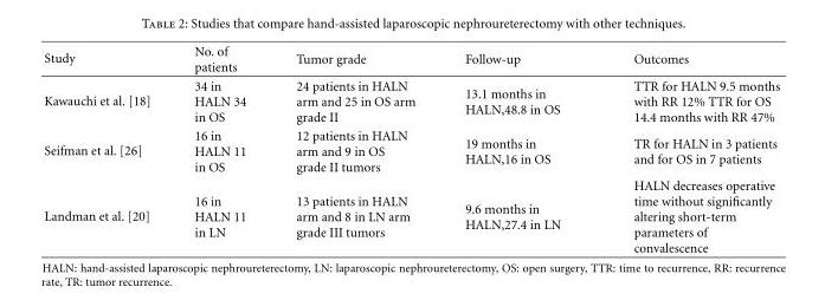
<table><thead><tr><td>Study</td><td>No. of patients</td><td>Tumor grade</td><td>Follow-up</td><td>Outcomes</td></tr></thead><tbody><tr><td>Kawauchi et al. [18]</td><td>34 in HALN 34 in OS</td><td>24 patients in HALN arm and 25 in OS arm grade II</td><td>13.1 months in HALN,48.8 in OS</td><td>TTR for HALN 9.5 months with RR 12% TTR for OS 14.4 months with RR 47%</td></tr><tr><td>Seifman et al. [26]</td><td>16 in HALN 11 in OS</td><td>12 patients in HALN arm and 9 in OS grade II tumors</td><td>19 months in HALN,16 in OS</td><td>TR for HALN in 3 patients and for OS in 7 patients</td></tr><tr><td>Landman et al. [20]</td><td>16 in HALN 11 in LN</td><td>13 patients in HALN arm and 8 in LN arm grade III tumors</td><td>9.6 months in HALN,27.4 in LN</td><td>HALN decreases operative time without significantly altering short-term parameters of convalescence</td></tr></tbody></table>